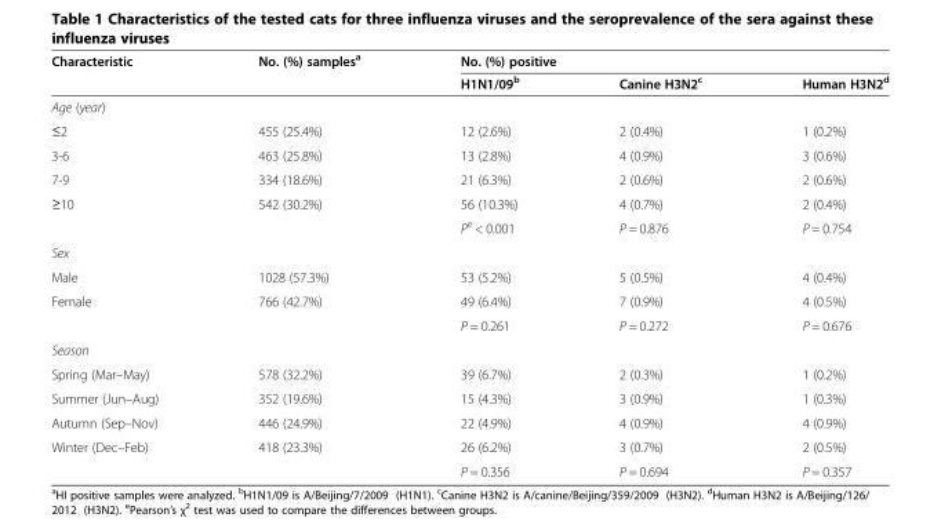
<table><thead><tr><td rowspan="2">Characteristic</td><td rowspan="2">No. (%) samples<sup>a</sup></td><td colspan="3">No. (%) positive</td></tr><tr><td>H1N1/09<sup>b</sup></td><td>Canine H3N2<sup>c</sup></td><td>Human H3N2<sup>d</sup></td></tr></thead><tbody><tr><td colspan="5">Age (year)</td></tr><tr><td>≤2</td><td>455 (25.4%)</td><td>12 (2.6%)</td><td>2 (0.4%)</td><td>1 (0.2%)</td></tr><tr><td>3-6</td><td>463 (25.8%)</td><td>13 (2.8%)</td><td>4 (0.9%)</td><td>3 (0.6%)</td></tr><tr><td>7-9</td><td>334 (18.6%)</td><td>21 (6.3%)</td><td>2 (0.6%)</td><td>2 (0.6%)</td></tr><tr><td rowspan="2">≥10</td><td>542 (30.2%)</td><td>56 (10.3%)</td><td>4 (0.7%)</td><td>2 (0.4%)</td></tr><tr><td></td><td>P<sup>e</sup> &lt; 0.001</td><td>P = 0.876</td><td>P = 0.754</td></tr><tr><td colspan="5">Sex</td></tr><tr><td>Male</td><td>1028 (57.3%)</td><td>53 (5.2%)</td><td>5 (0.5%)</td><td>4 (0.4%)</td></tr><tr><td rowspan="2">Female</td><td>766 (42.7%)</td><td>49 (6.4%)</td><td>7 (0.9%)</td><td>4 (0.5%)</td></tr><tr><td></td><td>P = 0.261</td><td>P = 0.272</td><td>P = 0.676</td></tr><tr><td colspan="5">Season</td></tr><tr><td>Spring (Mar–May)</td><td>578 (32.2%)</td><td>39 (6.7%)</td><td>2 (0.3%)</td><td>1 (0.2%)</td></tr><tr><td>Summer (Jun–Aug)</td><td>352 (19.6%)</td><td>15 (4.3%)</td><td>3 (0.9%)</td><td>1 (0.3%)</td></tr><tr><td>Autumn (Sep–Nov)</td><td>446 (24.9%)</td><td>22 (4.9%)</td><td>4 (0.9%)</td><td>4 (0.9%)</td></tr><tr><td rowspan="2">Winter (Dec–Feb)</td><td>418 (23.3%)</td><td>26 (6.2%)</td><td>3 (0.7%)</td><td>2 (0.5%)</td></tr><tr><td></td><td>P = 0.356</td><td>P = 0.694</td><td>P = 0.357</td></tr></tbody></table>